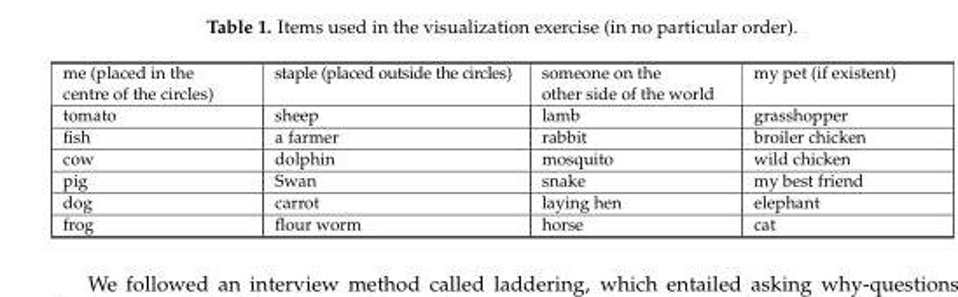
<table><tbody><tr><td>me (placed in the centre of the circles)</td><td>staple (placed outside the circles)</td><td>someone on the other side of the world</td><td>my pet (if existent)</td></tr><tr><td>tomato</td><td>sheep</td><td>lamb</td><td>grasshopper</td></tr><tr><td>fish</td><td>a farmer</td><td>rabbit</td><td>broiler chicken</td></tr><tr><td>cow</td><td>dolphin</td><td>mosquito</td><td>wild chicken</td></tr><tr><td>pig</td><td>Swan</td><td>snake</td><td>my best friend</td></tr><tr><td>dog</td><td>carrot</td><td>laying hen</td><td>elephant</td></tr><tr><td>frog</td><td>flour worm</td><td>horse</td><td>cat</td></tr></tbody></table>